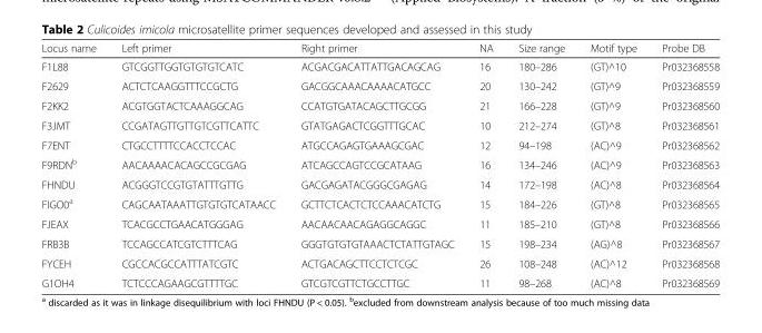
<table><thead><tr><td>Locus name</td><td>Left primer</td><td>Right primer</td><td>NA</td><td>Size range</td><td>Motif type</td><td>Probe DB</td></tr></thead><tbody><tr><td>F1L88</td><td>GTCGGTTGGTGTGTGTCATC</td><td>ACGACGACATTATTGACAGCAG</td><td>16</td><td>180–286</td><td>(GT)^10</td><td>Pr032368558</td></tr><tr><td>F2629</td><td>ACTCTCAAGGTTTCCGCTG</td><td>GACGGCAAACAAAACATGCC</td><td>20</td><td>130–242</td><td>(GT)^9</td><td>Pr032368559</td></tr><tr><td>F2KK2</td><td>ACGTGGTACTCAAAGGCAG</td><td>CCATGTGATACAGCTTGCGG</td><td>21</td><td>166–228</td><td>(GT)^9</td><td>Pr032368560</td></tr><tr><td>F3JMT</td><td>CCGATAGTTGTTGTCGTTCATTC</td><td>GTATGAGACTCGGTTTGCAC</td><td>10</td><td>212–274</td><td>(GT)^8</td><td>Pr032368561</td></tr><tr><td>F7ENT</td><td>CTGCCTTTTCCACCTCCAC</td><td>ATGCCAGAGTGAAAGCGAC</td><td>12</td><td>94–198</td><td>(AC)^9</td><td>Pr032368562</td></tr><tr><td>F9RDN<sup>b</sup></td><td>AACAAAACACAGCCGCGAG</td><td>ATCAGCCAGTCCGCATAAG</td><td>16</td><td>134–246</td><td>(AC)^9</td><td>Pr032368563</td></tr><tr><td>FHNDU</td><td>ACGGGTCCGTGTATTTGTTG</td><td>GACGAGATACGGGCGAGAG</td><td>14</td><td>172–198</td><td>(AC)^8</td><td>Pr032368564</td></tr><tr><td>FIGO0<sup>a</sup></td><td>CAGCAATAAATTGTGTGTCATAACC</td><td>GCTTCTCACTCTCCAAACATCTG</td><td>15</td><td>184–226</td><td>(GT)^8</td><td>Pr032368565</td></tr><tr><td>FJEAX</td><td>TCACGCCTGAACATGGGAG</td><td>AACAACAACAGAGGCAGGC</td><td>11</td><td>185–210</td><td>(GT)^8</td><td>Pr032368566</td></tr><tr><td>FRB3B</td><td>TCCAGCCATCGTCTTTCAG</td><td>GGGTGTGTGTAAACTCTATTGTAGC</td><td>15</td><td>198–234</td><td>(AG)^8</td><td>Pr032368567</td></tr><tr><td>FYCEH</td><td>CGCCACGCCATTTATCGTC</td><td>ACTGACAGCTTCCTCTCGC</td><td>26</td><td>108–248</td><td>(AC)^12</td><td>Pr032368568</td></tr><tr><td>G1OH4</td><td>TCTCCCAGAAGCGTTTTGC</td><td>GTCGTCGTTCTGCCTTGC</td><td>11</td><td>98–268</td><td>(AC)^8</td><td>Pr032368569</td></tr></tbody></table>